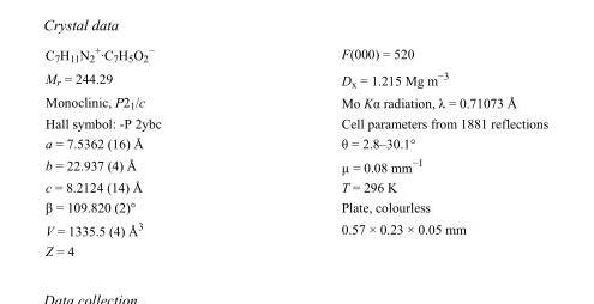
<table><tbody><tr><td>C<sub>7</sub>H<sub>11</sub>N<sub>2</sub> <sup>+</sup>·C<sub>7</sub>H<sub>5</sub>O<sub>2</sub> <sup>−</sup></td><td>F(000) = 520</td></tr><tr><td>M<sub>r</sub> = 244.29</td><td>D<sub>x</sub> = 1.215 Mg m<sup>−3</sup></td></tr><tr><td>Monoclinic, P2<sub>1</sub>/c</td><td>Mo Kα radiation, λ = 0.71073 Å</td></tr><tr><td>Hall symbol: -P 2ybc</td><td>Cell parameters from 1881 reflections</td></tr><tr><td>a = 7.5362 (16) Å</td><td>θ = 2.8–30.1°</td></tr><tr><td>b = 22.937 (4) Å</td><td>µ = 0.08 mm<sup>−1</sup></td></tr><tr><td>c = 8.2124 (14) Å</td><td>T = 296 K</td></tr><tr><td>β = 109.820 (2)°</td><td>Plate, colourless</td></tr><tr><td>V = 1335.5 (4) Å<sup>3</sup></td><td>0.57 × 0.23 × 0.05 mm</td></tr><tr><td>Z = 4</td><td></td></tr></tbody></table>